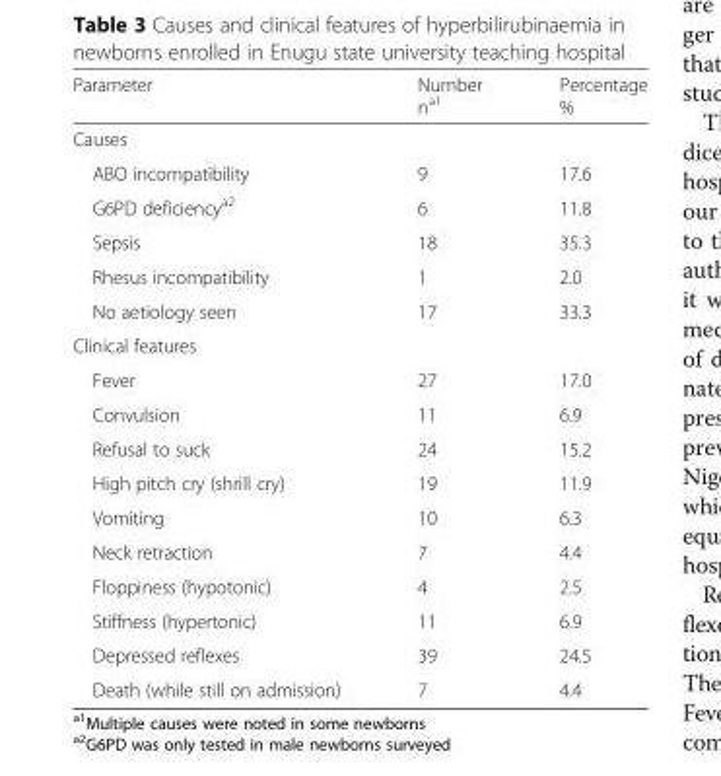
<table><thead><tr><td>Parameter</td><td>Number n<sup>a1</sup></td><td>Percentage %</td></tr></thead><tbody><tr><td colspan="3">Causes</td></tr><tr><td>ABO incompatibility</td><td>9</td><td>17.6</td></tr><tr><td>G6PD deficiency<sup>a2</sup></td><td>6</td><td>11.8</td></tr><tr><td>Sepsis</td><td>18</td><td>35.3</td></tr><tr><td>Rhesus incompatibility</td><td>1</td><td>2.0</td></tr><tr><td>No aetiology seen</td><td>17</td><td>33.3</td></tr><tr><td colspan="3">Clinical features</td></tr><tr><td>Fever</td><td>27</td><td>17.0</td></tr><tr><td>Convulsion</td><td>11</td><td>6.9</td></tr><tr><td>Refusal to suck</td><td>24</td><td>15.2</td></tr><tr><td>High pitch cry (shrill cry)</td><td>19</td><td>11.9</td></tr><tr><td>Vomiting</td><td>10</td><td>6.3</td></tr><tr><td>Neck retraction</td><td>7</td><td>4.4</td></tr><tr><td>Floppiness (hypotonic)</td><td>4</td><td>2.5</td></tr><tr><td>Stiffness (hypertonic)</td><td>11</td><td>6.9</td></tr><tr><td>Depressed reflexes</td><td>39</td><td>24.5</td></tr><tr><td>Death (while still on admission)</td><td>7</td><td>4.4</td></tr></tbody></table>